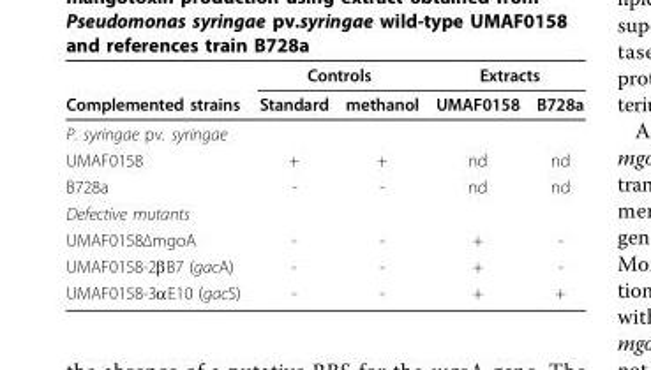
<table><thead><tr><td rowspan="2">Complemented strains</td><td colspan="2">Controls</td><td colspan="2">Extracts</td></tr><tr><td>Standard</td><td>methanol</td><td>UMAF0158</td><td>B728a</td></tr></thead><tbody><tr><td colspan="5">P. syringae pv. syringae</td></tr><tr><td>UMAF0158</td><td>+</td><td>+</td><td>nd</td><td>nd</td></tr><tr><td>B728a</td><td>-</td><td>-</td><td>nd</td><td>nd</td></tr><tr><td colspan="5">Defective mutants</td></tr><tr><td>UMAF0158ΔmgoA</td><td>-</td><td>-</td><td>+</td><td>-</td></tr><tr><td>UMAF0158-2βB7 (gacA)</td><td>-</td><td>-</td><td>+</td><td>-</td></tr><tr><td>UMAF0158-3αE10 (gacS)</td><td>-</td><td>-</td><td>+</td><td>+</td></tr></tbody></table>